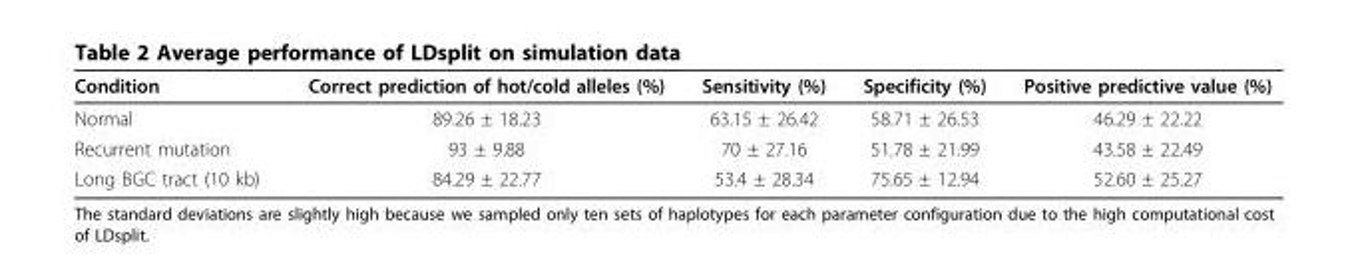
<table><thead><tr><td>Condition</td><td>Correct prediction of hot/cold alleles (%)</td><td>Sensitivity (%)</td><td>Specificity (%)</td><td>Positive predictive value (%)</td></tr></thead><tbody><tr><td>Normal</td><td>89.26 ± 18.23</td><td>63.15 ± 26.42</td><td>58.71 ± 26.53</td><td>46.29 ± 22.22</td></tr><tr><td>Recurrent mutation</td><td>93 ± 9.88</td><td>70 ± 27.16</td><td>51.78 ± 21.99</td><td>43.58 ± 22.49</td></tr><tr><td>Long BGC tract (10 kb)</td><td>84.29 ± 22.77</td><td>53.4 ± 28.34</td><td>75.65 ± 12.94</td><td>52.60 ± 25.27</td></tr></tbody></table>